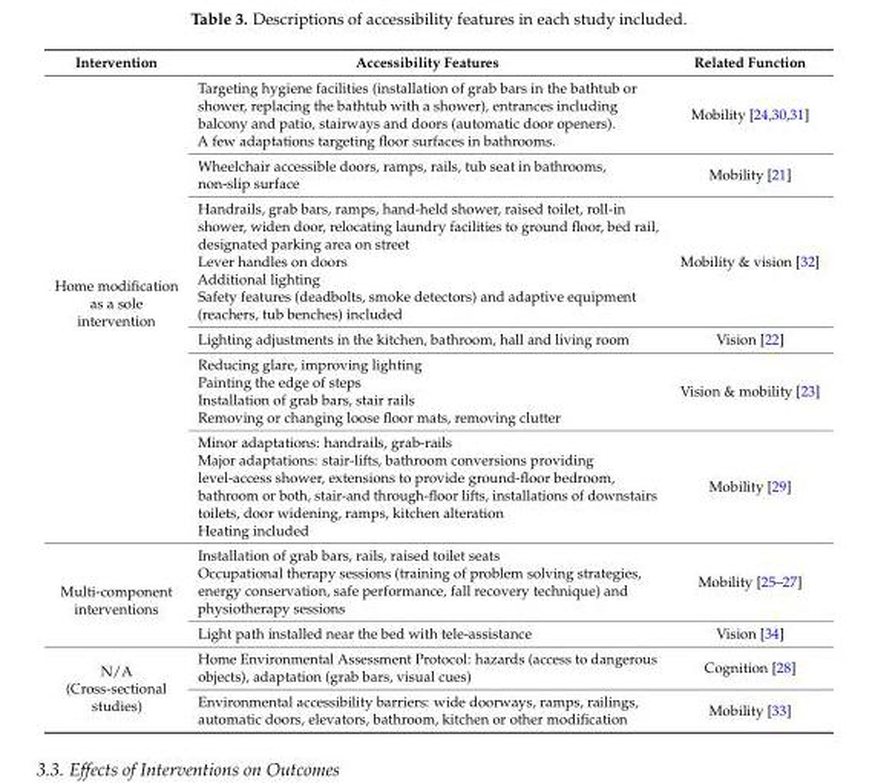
<table><thead><tr><td>Intervention</td><td>Accessibility Features</td><td>Related Function</td></tr></thead><tbody><tr><td rowspan="6">Home modification as a sole intervention</td><td>Targeting hygiene facilities (installation of grab bars in the bathtub or shower, replacing the bathtub with a shower), entrances including balcony and patio, stairways and doors (automatic door openers). A few adaptations targeting floor surfaces in bathrooms.</td><td>Mobility [24,30,31]</td></tr><tr><td>Wheelchair accessible doors, ramps, rails, tub seat in bathrooms, non-slip surface</td><td>Mobility [21]</td></tr><tr><td>Handrails, grab bars, ramps, hand-held shower, raised toilet, roll-in shower, widen door, relocating laundry facilities to ground floor, bed rail, designated parking area on street Lever handles on doors Additional lighting Safety features (deadbolts, smoke detectors) and adaptive equipment (reachers, tub benches) included</td><td>Mobility &amp; vision [32]</td></tr><tr><td>Lighting adjustments in the kitchen, bathroom, hall and living room</td><td>Vision [22]</td></tr><tr><td>Reducing glare, improving lighting Painting the edge of steps Installation of grab bars, stair rails Removing or changing loose floor mats, removing clutter</td><td>Vision &amp; mobility [23]</td></tr><tr><td>Minor adaptations: handrails, grab-rails Major adaptations: stair-lifts, bathroom conversions providing level-access shower, extensions to provide ground-floor bedroom, bathroom or both, stair-and through-floor lifts, installations of downstairs toilets, door widening, ramps, kitchen alteration Heating included</td><td>Mobility [29]</td></tr><tr><td rowspan="2">Multi-component interventions</td><td>Installation of grab bars, rails, raised toilet seats Occupational therapy sessions (training of problem solving strategies, energy conservation, safe performance, fall recovery technique) and physiotherapy sessions</td><td>Mobility [25–27]</td></tr><tr><td>Light path installed near the bed with tele-assistance</td><td>Vision [34]</td></tr><tr><td rowspan="2">N/A (Cross-sectional studies)</td><td>Home Environmental Assessment Protocol: hazards (access to dangerous objects), adaptation (grab bars, visual cues)</td><td>Cognition [28]</td></tr><tr><td>Environmental accessibility barriers: wide doorways, ramps, railings, automatic doors, elevators, bathroom, kitchen or other modification</td><td>Mobility [33]</td></tr></tbody></table>